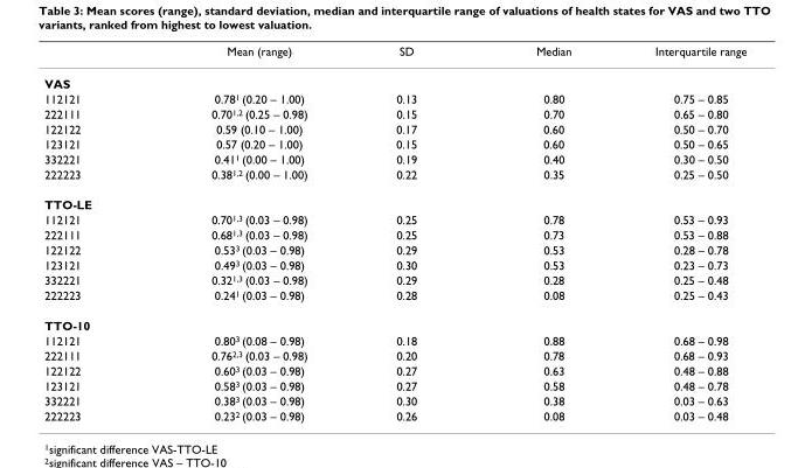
<table><thead><tr><td></td><td>Mean (range)</td><td>SD</td><td>Median</td><td>Interquartile range</td></tr></thead><tbody><tr><td colspan="5">VAS</td></tr><tr><td>112121</td><td>0.78<sup>1</sup> (0.20 – 1.00)</td><td>0.13</td><td>0.80</td><td>0.75 – 0.85</td></tr><tr><td>222111</td><td>0.70<sup>1,2</sup> (0.25 – 0.98)</td><td>0.15</td><td>0.70</td><td>0.65 – 0.80</td></tr><tr><td>122122</td><td>0.59 (0.10 – 1.00)</td><td>0.17</td><td>0.60</td><td>0.50 – 0.70</td></tr><tr><td>123121</td><td>0.57 (0.20 – 1.00)</td><td>0.15</td><td>0.60</td><td>0.50 – 0.65</td></tr><tr><td>332221</td><td>0.41<sup>1</sup> (0.00 – 1.00)</td><td>0.19</td><td>0.40</td><td>0.30 – 0.50</td></tr><tr><td>222223</td><td>0.38<sup>1,2</sup> (0.00 – 1.00)</td><td>0.22</td><td>0.35</td><td>0.25 – 0.50</td></tr><tr><td colspan="5">TTO-LE</td></tr><tr><td>112121</td><td>0.70<sup>1,3</sup> (0.03 – 0.98)</td><td>0.25</td><td>0.78</td><td>0.53 – 0.93</td></tr><tr><td>222111</td><td>0.68<sup>1,3</sup> (0.03 – 0.98)</td><td>0.25</td><td>0.73</td><td>0.53 – 0.88</td></tr><tr><td>122122</td><td>0.53<sup>3</sup> (0.03 – 0.98)</td><td>0.29</td><td>0.53</td><td>0.28 – 0.78</td></tr><tr><td>123121</td><td>0.49<sup>3</sup> (0.03 – 0.98)</td><td>0.30</td><td>0.53</td><td>0.23 – 0.73</td></tr><tr><td>332221</td><td>0.32<sup>1,3</sup> (0.03 – 0.98)</td><td>0.29</td><td>0.28</td><td>0.25 – 0.48</td></tr><tr><td>222223</td><td>0.24<sup>1</sup> (0.03 – 0.98)</td><td>0.28</td><td>0.08</td><td>0.25 – 0.43</td></tr><tr><td colspan="5">TTO-10</td></tr><tr><td>112121</td><td>0.80<sup>3</sup> (0.08 – 0.98)</td><td>0.18</td><td>0.88</td><td>0.68 – 0.98</td></tr><tr><td>222111</td><td>0.76<sup>2,3</sup> (0.03 – 0.98)</td><td>0.20</td><td>0.78</td><td>0.68 – 0.93</td></tr><tr><td>122122</td><td>0.60<sup>3</sup> (0.03 – 0.98)</td><td>0.27</td><td>0.63</td><td>0.48 – 0.88</td></tr><tr><td>123121</td><td>0.58<sup>3</sup> (0.03 – 0.98)</td><td>0.27</td><td>0.58</td><td>0.48 – 0.78</td></tr><tr><td>332221</td><td>0.38<sup>3</sup> (0.03 – 0.98)</td><td>0.30</td><td>0.38</td><td>0.03 – 0.63</td></tr><tr><td>222223</td><td>0.23<sup>2</sup> (0.03 – 0.98)</td><td>0.26</td><td>0.08</td><td>0.03 – 0.48</td></tr></tbody></table>